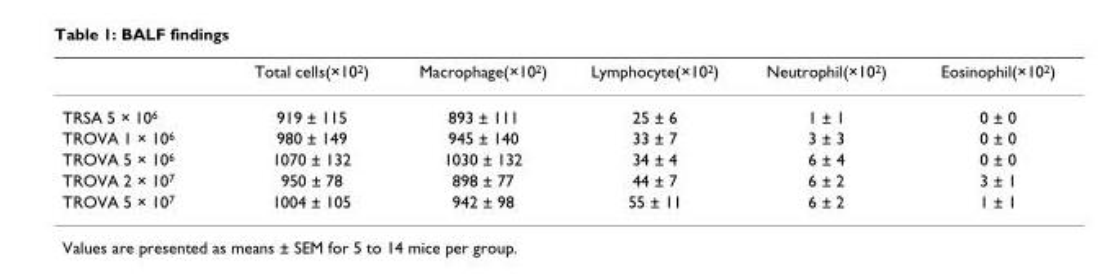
<table><thead><tr><td></td><td>Total cells(×10<sup>2</sup>)</td><td>Macrophage(×10<sup>2</sup>)</td><td>Lymphocyte(×10<sup>2</sup>)</td><td>Neutrophil(×10<sup>2</sup>)</td><td>Eosinophil(×10<sup>2</sup>)</td></tr></thead><tbody><tr><td>TRSA 5 × 10<sup>6</sup></td><td>919 ± 115</td><td>893 ± 111</td><td>25 ± 6</td><td>1 ± 1</td><td>0 ± 0</td></tr><tr><td>TROVA 1 × 10<sup>6</sup></td><td>980 ± 149</td><td>945 ± 140</td><td>33 ± 7</td><td>3 ± 3</td><td>0 ± 0</td></tr><tr><td>TROVA 5 × 10<sup>6</sup></td><td>1070 ± 132</td><td>1030 ± 132</td><td>34 ± 4</td><td>6 ± 4</td><td>0 ± 0</td></tr><tr><td>TROVA 2 × 10<sup>7</sup></td><td>950 ± 78</td><td>898 ± 77</td><td>44 ± 7</td><td>6 ± 2</td><td>3 ± 1</td></tr><tr><td>TROVA 5 × 10<sup>7</sup></td><td>1004 ± 105</td><td>942 ± 98</td><td>55 ± 11</td><td>6 ± 2</td><td>1 ± 1</td></tr></tbody></table>